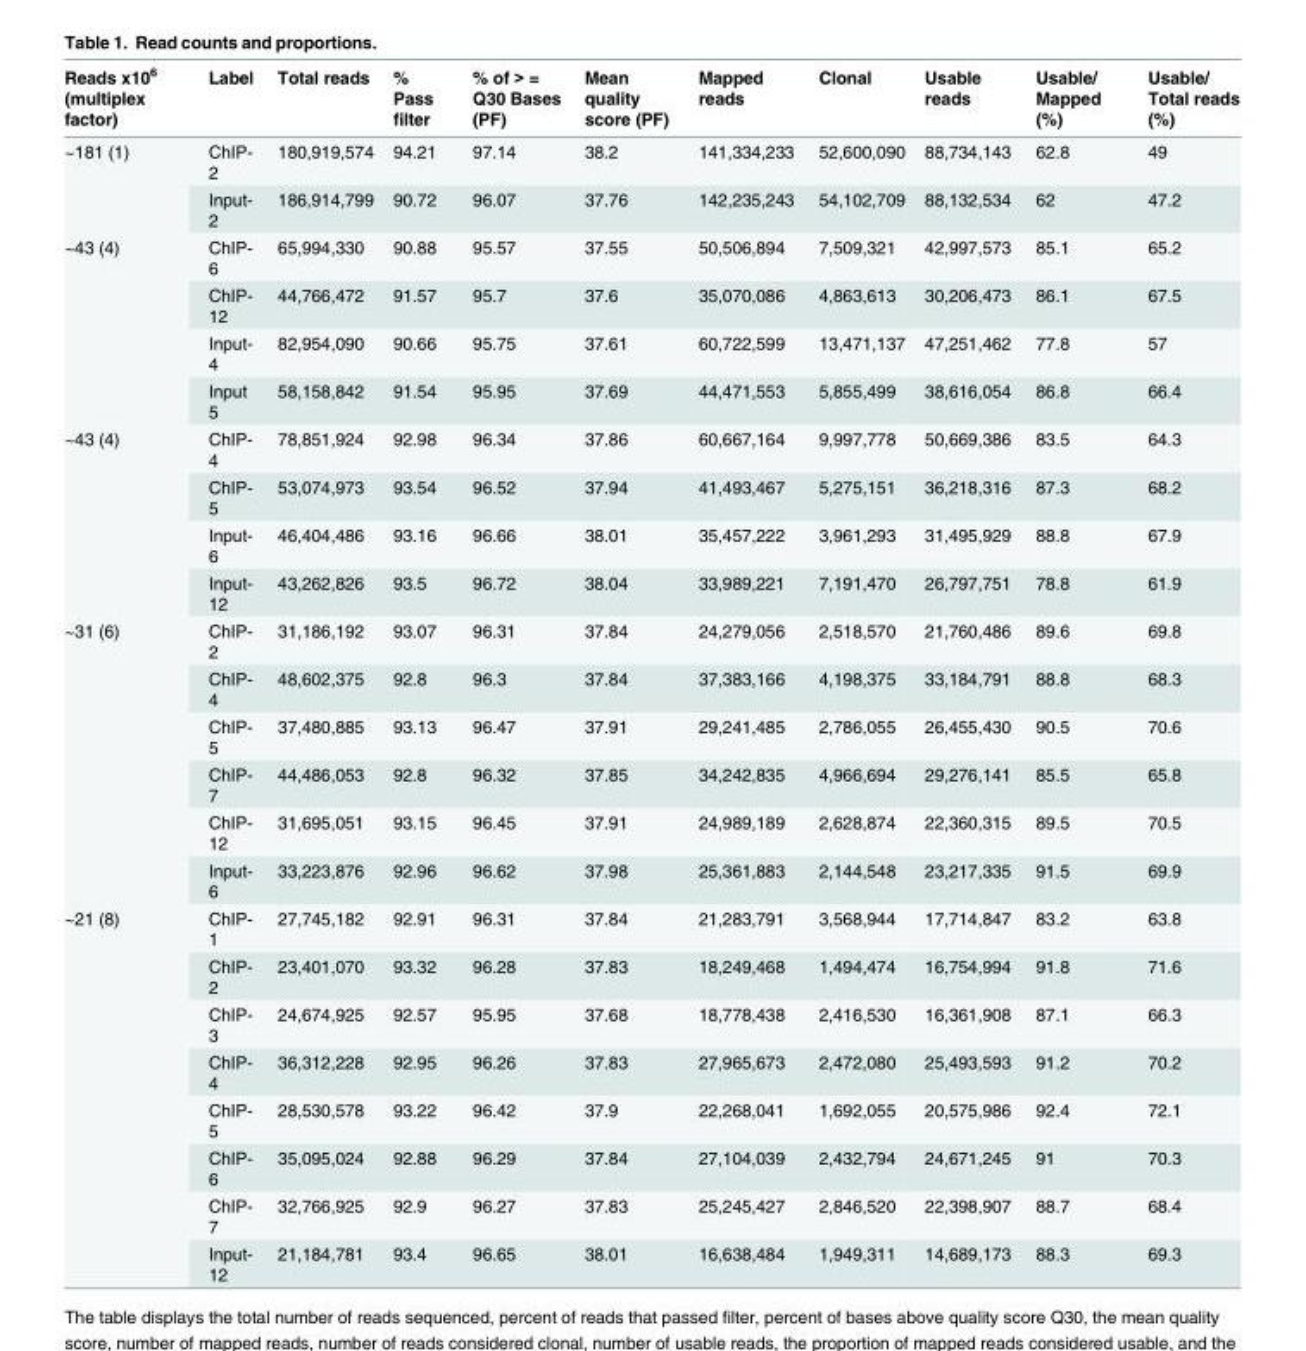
<table><thead><tr><td>Reads x10<sup>6</sup> (multiplex factor)</td><td>Label</td><td>Total reads</td><td>% Pass filter</td><td>% of &gt; = Q30 Bases (PF)</td><td>Mean quality score (PF)</td><td>Mapped reads</td><td>Clonal</td><td>Usable reads</td><td>Usable/ Mapped (%)</td><td>Usable/ Total reads (%)</td></tr></thead><tbody><tr><td rowspan="2">~181 (1)</td><td>ChIP- 2</td><td>180,919,574</td><td>94.21</td><td>97.14</td><td>38.2</td><td>141,334,233</td><td>52,600,090</td><td>88,734,143</td><td>62.8</td><td>49</td></tr><tr><td>Input- 2</td><td>186,914,799</td><td>90.72</td><td>96.07</td><td>37.76</td><td>142,235,243</td><td>54,102,709</td><td>88,132,534</td><td>62</td><td>47.2</td></tr><tr><td rowspan="4">~43 (4)</td><td>ChIP- 6</td><td>65,994,330</td><td>90.88</td><td>95.57</td><td>37.55</td><td>50,506,894</td><td>7,509,321</td><td>42,997,573</td><td>85.1</td><td>65.2</td></tr><tr><td>ChIP- 12</td><td>44,766,472</td><td>91.57</td><td>95.7</td><td>37.6</td><td>35,070,086</td><td>4,863,613</td><td>30,206,473</td><td>86.1</td><td>67.5</td></tr><tr><td>Input- 4</td><td>82,954,090</td><td>90.66</td><td>95.75</td><td>37.61</td><td>60,722,599</td><td>13,471,137</td><td>47,251,462</td><td>77.8</td><td>57</td></tr><tr><td>Input 5</td><td>58,158,842</td><td>91.54</td><td>95.95</td><td>37.69</td><td>44,471,553</td><td>5,855,499</td><td>38,616,054</td><td>86.8</td><td>66.4</td></tr><tr><td rowspan="4">~43 (4)</td><td>ChIP- 4</td><td>78,851,924</td><td>92.98</td><td>96.34</td><td>37.86</td><td>60,667,164</td><td>9,997,778</td><td>50,669,386</td><td>83.5</td><td>64.3</td></tr><tr><td>ChIP- 5</td><td>53,074,973</td><td>93.54</td><td>96.52</td><td>37.94</td><td>41,493,467</td><td>5,275,151</td><td>36,218,316</td><td>87.3</td><td>68.2</td></tr><tr><td>Input- 6</td><td>46,404,486</td><td>93.16</td><td>96.66</td><td>38.01</td><td>35,457,222</td><td>3,961,293</td><td>31,495,929</td><td>88.8</td><td>67.9</td></tr><tr><td>Input- 12</td><td>43,262,826</td><td>93.5</td><td>96.72</td><td>38.04</td><td>33,989,221</td><td>7,191,470</td><td>26,797,751</td><td>78.8</td><td>61.9</td></tr><tr><td rowspan="6">~31 (6)</td><td>ChIP- 2</td><td>31,186,192</td><td>93.07</td><td>96.31</td><td>37.84</td><td>24,279,056</td><td>2,518,570</td><td>21,760,486</td><td>89.6</td><td>69.8</td></tr><tr><td>ChIP- 4</td><td>48,602,375</td><td>92.8</td><td>96.3</td><td>37.84</td><td>37,383,166</td><td>4,198,375</td><td>33,184,791</td><td>88.8</td><td>68.3</td></tr><tr><td>ChIP- 5</td><td>37,480,885</td><td>93.13</td><td>96.47</td><td>37.91</td><td>29,241,485</td><td>2,786,055</td><td>26,455,430</td><td>90.5</td><td>70.6</td></tr><tr><td>ChIP- 7</td><td>44,486,053</td><td>92.8</td><td>96.32</td><td>37.85</td><td>34,242,835</td><td>4,966,694</td><td>29,276,141</td><td>85.5</td><td>65.8</td></tr><tr><td>ChIP- 12</td><td>31,695,051</td><td>93.15</td><td>96.45</td><td>37.91</td><td>24,989,189</td><td>2,628,874</td><td>22,360,315</td><td>89.5</td><td>70.5</td></tr><tr><td>Input- 6</td><td>33,223,876</td><td>92.96</td><td>96.62</td><td>37.98</td><td>25,361,883</td><td>2,144,548</td><td>23,217,335</td><td>91.5</td><td>69.9</td></tr><tr><td rowspan="8">~21 (8)</td><td>ChIP- 1</td><td>27,745,182</td><td>92.91</td><td>96.31</td><td>37.84</td><td>21,283,791</td><td>3,568,944</td><td>17,714,847</td><td>83.2</td><td>63.8</td></tr><tr><td>ChIP- 2</td><td>23,401,070</td><td>93.32</td><td>96.28</td><td>37.83</td><td>18,249,468</td><td>1,494,474</td><td>16,754,994</td><td>91.8</td><td>71.6</td></tr><tr><td>ChIP- 3</td><td>24,674,925</td><td>92.57</td><td>95.95</td><td>37.68</td><td>18,778,438</td><td>2,416,530</td><td>16,361,908</td><td>87.1</td><td>66.3</td></tr><tr><td>ChIP- 4</td><td>36,312,228</td><td>92.95</td><td>96.26</td><td>37.83</td><td>27,965,673</td><td>2,472,080</td><td>25,493,593</td><td>91.2</td><td>70.2</td></tr><tr><td>ChIP- 5</td><td>28,530,578</td><td>93.22</td><td>96.42</td><td>37.9</td><td>22,268,041</td><td>1,692,055</td><td>20,575,986</td><td>92.4</td><td>72.1</td></tr><tr><td>ChIP- 6</td><td>35,095,024</td><td>92.88</td><td>96.29</td><td>37.84</td><td>27,104,039</td><td>2,432,794</td><td>24,671,245</td><td>91</td><td>70.3</td></tr><tr><td>ChIP- 7</td><td>32,766,925</td><td>92.9</td><td>96.27</td><td>37.83</td><td>25,245,427</td><td>2,846,520</td><td>22,398,907</td><td>88.7</td><td>68.4</td></tr><tr><td>Input- 12</td><td>21,184,781</td><td>93.4</td><td>96.65</td><td>38.01</td><td>16,638,484</td><td>1,949,311</td><td>14,689,173</td><td>88.3</td><td>69.3</td></tr></tbody></table>